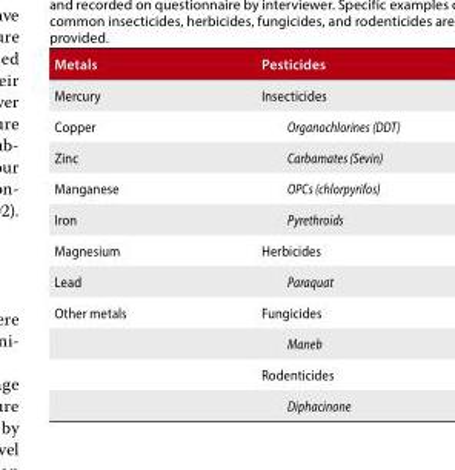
<table><thead><tr><td>Metals</td><td>Pesticides</td></tr></thead><tbody><tr><td>Mercury</td><td>Insecticides</td></tr><tr><td>Copper</td><td>Organochlorines (DDT)</td></tr><tr><td>Zinc</td><td>Carbamates (Sevin)</td></tr><tr><td>Manganese</td><td>OPCs (chlorpyrifos)</td></tr><tr><td>Iron</td><td>Pyrethroids</td></tr><tr><td>Magnesium</td><td>Herbicides</td></tr><tr><td>Lead</td><td>Paraquat</td></tr><tr><td rowspan="4">Other metals</td><td>Fungicides</td></tr><tr><td>Maneb</td></tr><tr><td>Rodenticides</td></tr><tr><td>Diphacinone</td></tr></tbody></table>